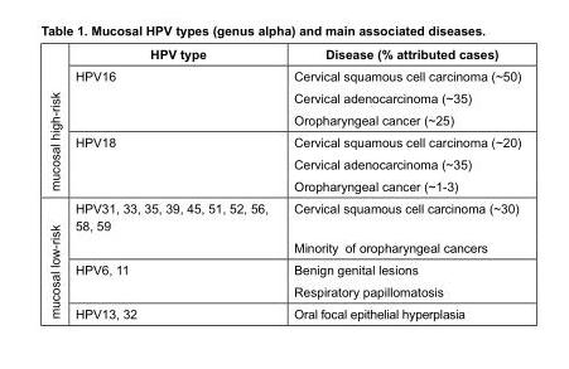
<table><thead><tr><td></td><td>HPV type</td><td>Disease (% attributed cases)</td></tr></thead><tbody><tr><td rowspan="2">mucosal high-risk</td><td>HPV16</td><td>Cervical squamous cell carcinoma (~50) Cervical adenocarcinoma (~35) Oropharyngeal cancer (~25)</td></tr><tr><td>HPV18</td><td>Cervical squamous cell carcinoma (~20) Cervical adenocarcinoma (~35) Oropharyngeal cancer (~1-3)</td></tr><tr><td rowspan="3">mucosal low-risk</td><td>HPV31, 33, 35, 39, 45, 51, 52, 56, 58, 59</td><td>Cervical squamous cell carcinoma (~30) Minority of oropharyngeal cancers</td></tr><tr><td>HPV6, 11</td><td>Benign genital lesions Respiratory papillomatosis</td></tr><tr><td>HPV13, 32</td><td>Oral focal epithelial hyperplasia</td></tr></tbody></table>